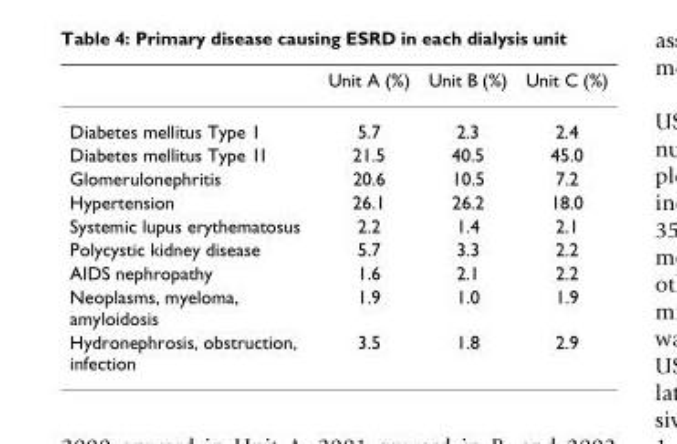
<table><thead><tr><td></td><td>Unit A (%)</td><td>Unit B (%)</td><td>Unit C (%)</td></tr></thead><tbody><tr><td>Diabetes mellitus Type 1</td><td>5.7</td><td>2.3</td><td>2.4</td></tr><tr><td>Diabetes mellitus Type 1I</td><td>21.5</td><td>40.5</td><td>45.0</td></tr><tr><td>Glomerulonephritis</td><td>20.6</td><td>10.5</td><td>7.2</td></tr><tr><td>Hypertension</td><td>26.1</td><td>26.2</td><td>18.0</td></tr><tr><td>Systemic lupus erythematosus</td><td>2.2</td><td>1.4</td><td>2.1</td></tr><tr><td>Polycystic kidney disease</td><td>5.7</td><td>3.3</td><td>2.2</td></tr><tr><td>AIDS nephropathy</td><td>1.6</td><td>2.1</td><td>2.2</td></tr><tr><td>Neoplasms, myeloma, amyloidosis</td><td>1.9</td><td>1.0</td><td>1.9</td></tr><tr><td>Hydronephrosis, obstruction, infection</td><td>3.5</td><td>1.8</td><td>2.9</td></tr></tbody></table>